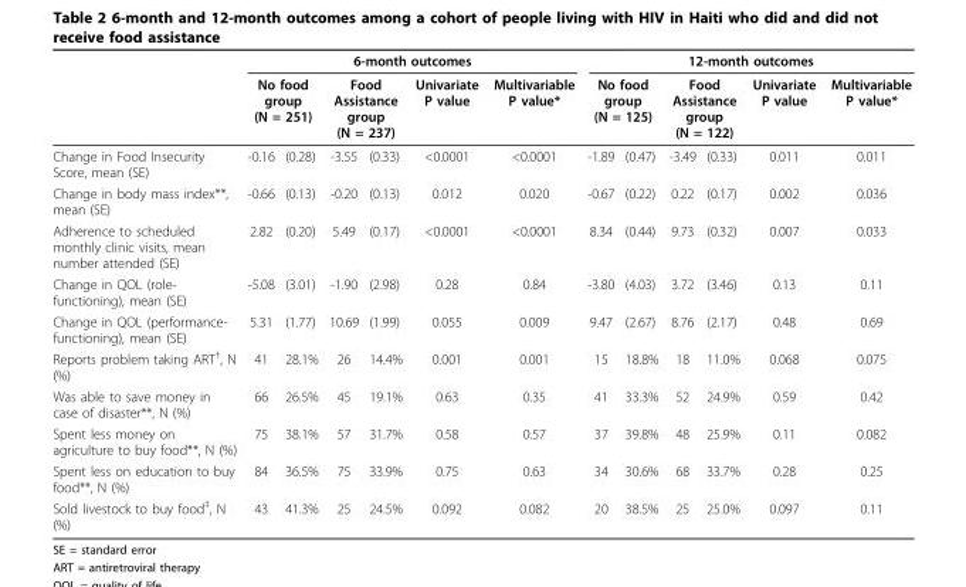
<table><thead><tr><td rowspan="3">Change in Food Insecurity Score, mean (SE)</td><td colspan="6">6-month outcomes</td><td colspan="6">12-month outcomes</td></tr><tr><td colspan="2">No food group (N = 251)</td><td colspan="2">Food Assistance group (N = 237)</td><td rowspan="2">Univariate P value &lt;0.0001</td><td rowspan="2">Multivariable P value* &lt;0.0001</td><td colspan="2">No food group (N = 125)</td><td colspan="2">Food Assistance group (N = 122)</td><td rowspan="2">Univariate P value 0.011</td><td rowspan="2">Multivariable P value* 0.011</td></tr><tr><td>-0.16</td><td>(0.28)</td><td>-3.55</td><td>(0.33)</td><td>-1.89</td><td>(0.47)</td><td>-3.49</td><td>(0.33)</td></tr></thead><tbody><tr><td>Change in body mass index**, mean (SE)</td><td>-0.66</td><td>(0.13)</td><td>-0.20</td><td>(0.13)</td><td>0.012</td><td>0.020</td><td>-0.67</td><td>(0.22)</td><td>0.22</td><td>(0.17)</td><td>0.002</td><td>0.036</td></tr><tr><td>Adherence to scheduled monthly clinic visits, mean number attended (SE)</td><td>2.82</td><td>(0.20)</td><td>5.49</td><td>(0.17)</td><td>&lt;0.0001</td><td>&lt;0.0001</td><td>8.34</td><td>(0.44)</td><td>9.73</td><td>(0.32)</td><td>0.007</td><td>0.033</td></tr><tr><td>Change in QOL (role- functioning), mean (SE)</td><td>-5.08</td><td>(3.01)</td><td>-1.90</td><td>(2.98)</td><td>0.28</td><td>0.84</td><td>-3.80</td><td>(4.03)</td><td>3.72</td><td>(3.46)</td><td>0.13</td><td>0.11</td></tr><tr><td>Change in QOL (performance- functioning), mean (SE)</td><td>5.31</td><td>(1.77)</td><td>10.69</td><td>(1.99)</td><td>0.055</td><td>0.009</td><td>9.47</td><td>(2.67)</td><td>8.76</td><td>(2.17)</td><td>0.48</td><td>0.69</td></tr><tr><td>Reports problem taking ART<sup>†</sup>, N (%)</td><td>41</td><td>28.1%</td><td>26</td><td>14.4%</td><td>0.001</td><td>0.001</td><td>15</td><td>18.8%</td><td>18</td><td>11.0%</td><td>0.068</td><td>0.075</td></tr><tr><td>Was able to save money in case of disaster**, N (%)</td><td>66</td><td>26.5%</td><td>45</td><td>19.1%</td><td>0.63</td><td>0.35</td><td>41</td><td>33.3%</td><td>52</td><td>24.9%</td><td>0.59</td><td>0.42</td></tr><tr><td>Spent less money on agriculture to buy food**, N (%)</td><td>75</td><td>38.1%</td><td>57</td><td>31.7%</td><td>0.58</td><td>0.57</td><td>37</td><td>39.8%</td><td>48</td><td>25.9%</td><td>0.11</td><td>0.082</td></tr><tr><td>Spent less on education to buy food**, N (%)</td><td>84</td><td>36.5%</td><td>75</td><td>33.9%</td><td>0.75</td><td>0.63</td><td>34</td><td>30.6%</td><td>68</td><td>33.7%</td><td>0.28</td><td>0.25</td></tr><tr><td>Sold livestock to buy food<sup>‡</sup>, N (%)</td><td>43</td><td>41.3%</td><td>25</td><td>24.5%</td><td>0.092</td><td>0.082</td><td>20</td><td>38.5%</td><td>25</td><td>25.0%</td><td>0.097</td><td>0.11</td></tr></tbody></table>